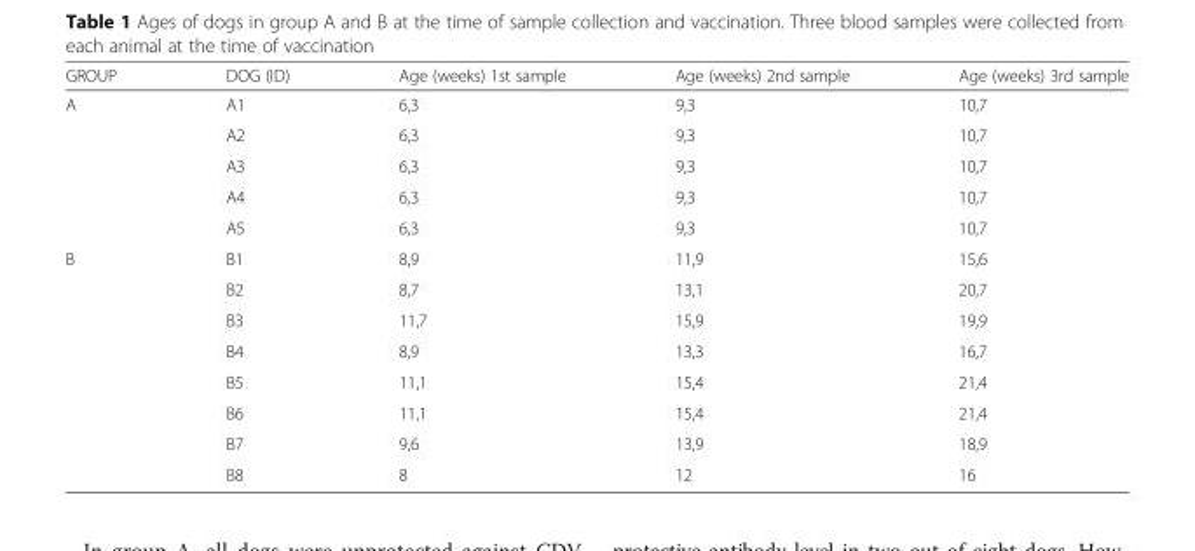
<table><thead><tr><td>GROUP</td><td>DOG (ID)</td><td>Age (weeks) 1st sample</td><td>Age (weeks) 2nd sample</td><td>Age (weeks) 3rd sample</td></tr></thead><tbody><tr><td rowspan="5">A</td><td>A1</td><td>6,3</td><td>9,3</td><td>10,7</td></tr><tr><td>A2</td><td>6,3</td><td>9,3</td><td>10,7</td></tr><tr><td>A3</td><td>6,3</td><td>9,3</td><td>10,7</td></tr><tr><td>A4</td><td>6,3</td><td>9,3</td><td>10,7</td></tr><tr><td>A5</td><td>6,3</td><td>9,3</td><td>10,7</td></tr><tr><td rowspan="8">B</td><td>B1</td><td>8,9</td><td>11,9</td><td>15,6</td></tr><tr><td>B2</td><td>8,7</td><td>13,1</td><td>20,7</td></tr><tr><td>B3</td><td>11,7</td><td>15,9</td><td>19,9</td></tr><tr><td>B4</td><td>8,9</td><td>13,3</td><td>16,7</td></tr><tr><td>B5</td><td>11,1</td><td>15,4</td><td>21,4</td></tr><tr><td>B6</td><td>11,1</td><td>15,4</td><td>21,4</td></tr><tr><td>B7</td><td>9,6</td><td>13,9</td><td>18,9</td></tr><tr><td>B8</td><td>8</td><td>12</td><td>16</td></tr></tbody></table>